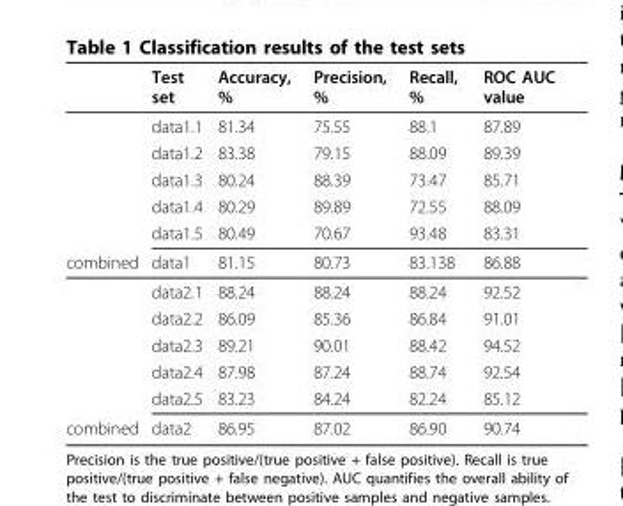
<table><thead><tr><td></td><td>Test set</td><td>Accuracy, %</td><td>Precision, %</td><td>Recall, %</td><td>ROC AUC value</td></tr></thead><tbody><tr><td></td><td>data1.1</td><td>81.34</td><td>75.55</td><td>88.1</td><td>87.89</td></tr><tr><td></td><td>data1.2</td><td>83.38</td><td>79.15</td><td>88.09</td><td>89.39</td></tr><tr><td></td><td>data1.3</td><td>80.24</td><td>88.39</td><td>73.47</td><td>85.71</td></tr><tr><td></td><td>data1.4</td><td>80.29</td><td>89.89</td><td>72.55</td><td>88.09</td></tr><tr><td></td><td>data1.5</td><td>80.49</td><td>70.67</td><td>93.48</td><td>83.31</td></tr><tr><td rowspan="6">combined</td><td>data1</td><td>81.15</td><td>80.73</td><td>83.138</td><td>86.88</td></tr><tr><td>data2.1</td><td>88.24</td><td>88.24</td><td>88.24</td><td>92.52</td></tr><tr><td>data2.2</td><td>86.09</td><td>85.36</td><td>86.84</td><td>91.01</td></tr><tr><td>data2.3</td><td>89.21</td><td>90.01</td><td>88.42</td><td>94.52</td></tr><tr><td>data2.4</td><td>87.98</td><td>87.24</td><td>88.74</td><td>92.54</td></tr><tr><td>data2.5</td><td>83.23</td><td>84.24</td><td>82.24</td><td>85.12</td></tr><tr><td>combined</td><td>data2</td><td>86.95</td><td>87.02</td><td>86.90</td><td>90.74</td></tr></tbody></table>